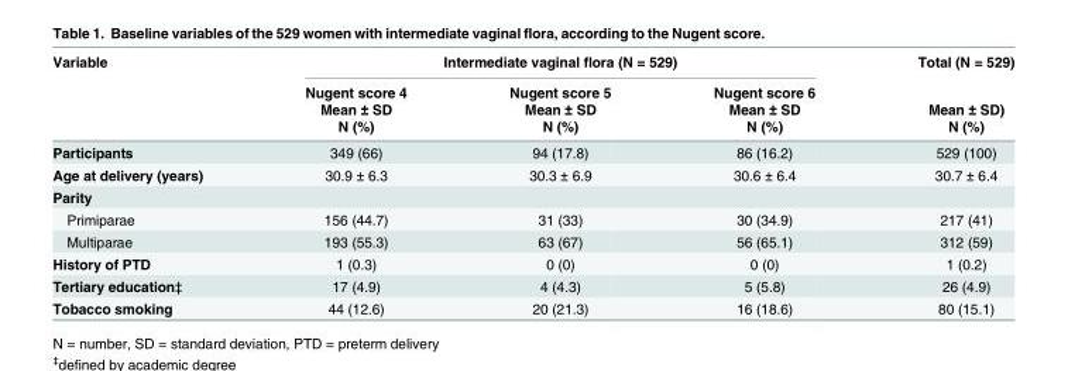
<table><thead><tr><td rowspan="4">Variable</td><td colspan="3">Intermediate vaginal flora (N = 529)</td><td rowspan="4">Total (N = 529) Mean ± SD) N (%)</td></tr><tr><td rowspan="3">Nugent score 4 Mean ± SD N (%)</td><td rowspan="3">Nugent score 5 Mean ± SD N (%)</td><td rowspan="3">Nugent score 6 Mean ± SD N (%)</td></tr><tr></tr><tr></tr></thead><tbody><tr><td>Participants</td><td>349 (66)</td><td>94 (17.8)</td><td>86 (16.2)</td><td>529 (100)</td></tr><tr><td>Age at delivery (years)</td><td>30.9 ± 6.3</td><td>30.3 ± 6.9</td><td>30.6 ± 6.4</td><td>30.7 ± 6.4</td></tr><tr><td colspan="5">Parity</td></tr><tr><td>Primiparae</td><td>156 (44.7)</td><td>31 (33)</td><td>30 (34.9)</td><td>217 (41)</td></tr><tr><td>Multiparae</td><td>193 (55.3)</td><td>63 (67)</td><td>56 (65.1)</td><td>312 (59)</td></tr><tr><td>History of PTD</td><td>1 (0.3)</td><td>0 (0)</td><td>0 (0)</td><td>1 (0.2)</td></tr><tr><td>Tertiary education‡</td><td>17 (4.9)</td><td>4 (4.3)</td><td>5 (5.8)</td><td>26 (4.9)</td></tr><tr><td>Tobacco smoking</td><td>44 (12.6)</td><td>20 (21.3)</td><td>16 (18.6)</td><td>80 (15.1)</td></tr></tbody></table>